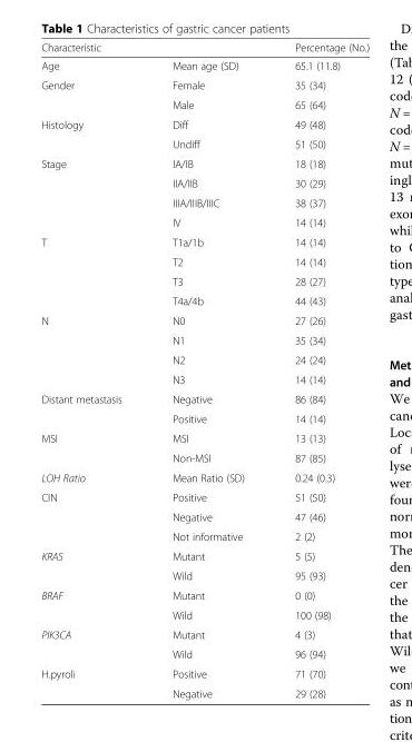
<table><thead><tr><td colspan="2">Characteristic</td><td rowspan="2">Percentage (No.) 65.1 (11.8)</td></tr><tr><td>Age</td><td>Mean age (SD)</td></tr></thead><tbody><tr><td rowspan="2">Gender</td><td>Female</td><td>35 (34)</td></tr><tr><td>Male</td><td>65 (64)</td></tr><tr><td rowspan="2">Histology</td><td>Diff</td><td>49 (48)</td></tr><tr><td>Undiff</td><td>51 (50)</td></tr><tr><td rowspan="4">Stage</td><td>IA/IB</td><td>18 (18)</td></tr><tr><td>IIA/IIB</td><td>30 (29)</td></tr><tr><td>IIIA/IIIB/IIIC</td><td>38 (37)</td></tr><tr><td>IV</td><td>14 (14)</td></tr><tr><td rowspan="4">T</td><td>T1a/1b</td><td>14 (14)</td></tr><tr><td>T2</td><td>14 (14)</td></tr><tr><td>T3</td><td>28 (27)</td></tr><tr><td>T4a/4b</td><td>44 (43)</td></tr><tr><td rowspan="4">N</td><td>N0</td><td>27 (26)</td></tr><tr><td>N1</td><td>35 (34)</td></tr><tr><td>N2</td><td>24 (24)</td></tr><tr><td>N3</td><td>14 (14)</td></tr><tr><td rowspan="2">Distant metastasis</td><td>Negative</td><td>86 (84)</td></tr><tr><td>Positive</td><td>14 (14)</td></tr><tr><td rowspan="2">MSI</td><td>MSI</td><td>13 (13)</td></tr><tr><td>Non-MSI</td><td>87 (85)</td></tr><tr><td>LOH Ratio</td><td>Mean Ratio (SD)</td><td>0.24 (0.3)</td></tr><tr><td rowspan="3">CIN</td><td>Positive</td><td>51 (50)</td></tr><tr><td>Negative</td><td>47 (46)</td></tr><tr><td>Not informative</td><td>2 (2)</td></tr><tr><td rowspan="2">KRAS</td><td>Mutant</td><td>5 (5)</td></tr><tr><td>Wild</td><td>95 (93)</td></tr><tr><td rowspan="2">BRAF</td><td>Mutant</td><td>0 (0)</td></tr><tr><td>Wild</td><td>100 (98)</td></tr><tr><td rowspan="2">PIK3CA</td><td>Mutant</td><td>4 (3)</td></tr><tr><td>Wild</td><td>96 (94)</td></tr><tr><td rowspan="2">H.pyroli</td><td>Positive</td><td>71 (70)</td></tr><tr><td>Negative</td><td>29 (28)</td></tr></tbody></table>